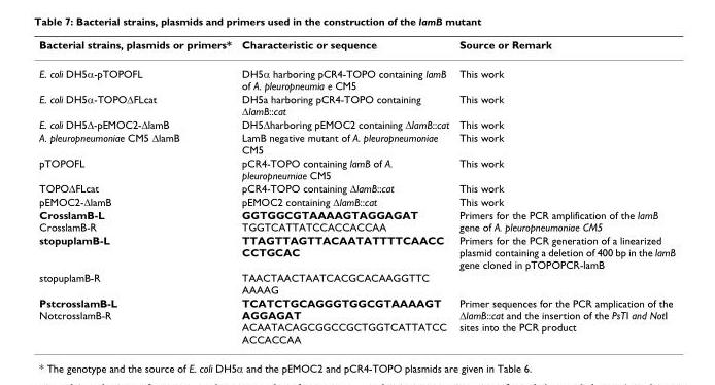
<table><thead><tr><td>Bacterial strains, plasmids or primers*</td><td>Characteristic or sequence</td><td>Source or Remark</td></tr></thead><tbody><tr><td>E. coli DH5α-pTOPOFL</td><td>DH5α harboring pCR4-TOPO containing lamB of A. pleuropneumia e CM5</td><td>This work</td></tr><tr><td>E. coli DH5α-TOPOΔFLcat</td><td>DH5a harboring pCR4-TOPO containing ΔlamB::cat</td><td>This work</td></tr><tr><td>E. coli DH5Δ-pEMOC2-ΔlamB</td><td>DH5Δharboring pEMOC2 containing ΔlamB::cat</td><td>This work</td></tr><tr><td>A. pleuropneumoniae CM5 ΔlamB</td><td>LamB negative mutant of A. pleuropneumoniae CM5</td><td>This work</td></tr><tr><td>pTOPOFL</td><td>pCR4-TOPO containing lamB of A. pleuropneumiae CM5</td><td>This work</td></tr><tr><td>TOPOΔFLcat</td><td>pCR4-TOPO containing ΔlamB::cat</td><td>This work</td></tr><tr><td>pEMOC2-ΔlamB</td><td>pEMOC2 containing ΔlamB::cat</td><td>This work</td></tr><tr><td>CrosslamB-L CrosslamB-R</td><td>GGTGGCGTAAAAGTAGGAGAT TGGTCATTATCCACCACCAA</td><td>Primers for the PCR amplification of the lamB gene of A. pleuropneumoniae CM5</td></tr><tr><td>stopuplamB-L</td><td>TTAGTTAGTTACAATATTTTCAACC CCTGCAC</td><td>Primers for the PCR generation of a linearized plasmid containing a deletion of 400 bp in the lamB gene cloned in pTOPOPCR-lamB</td></tr><tr><td>stopuplamB-R</td><td>TAACTAACTAATCACGCACAAGGTTC AAAAG</td><td></td></tr><tr><td>PstcrosslamB-L NotcrosslamB-R</td><td>TCATCTGCAGGGTGGCGTAAAAGT AGGAGAT ACAATACAGCGGCCGCTGGTCATTATCC ACCACCAA</td><td>Primer sequences for the PCR amplication of the ΔlamB::cat and the insertion of the PsTI and NotI sites into the PCR product</td></tr></tbody></table>